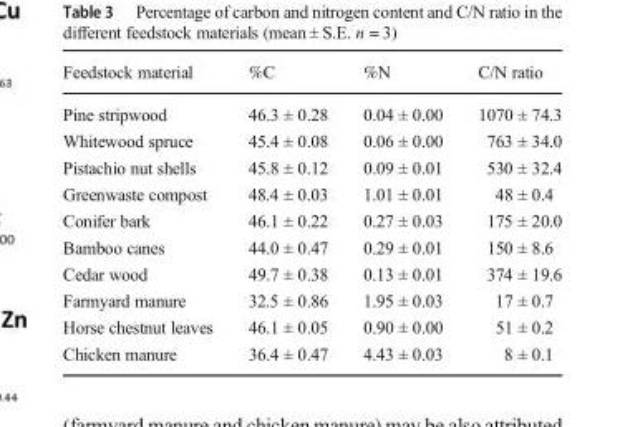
<table><thead><tr><td>Feedstock material</td><td>%C</td><td>%N</td><td>C/N ratio</td></tr></thead><tbody><tr><td>Pine stripwood</td><td>46.3 ± 0.28</td><td>0.04 ± 0.00</td><td>1070 ± 74.3</td></tr><tr><td>Whitewood spruce</td><td>45.4 ± 0.08</td><td>0.06 ± 0.00</td><td>763 ± 34.0</td></tr><tr><td>Pistachio nut shells</td><td>45.8 ± 0.12</td><td>0.09 ± 0.01</td><td>530 ± 32.4</td></tr><tr><td>Greenwaste compost</td><td>48.4 ± 0.03</td><td>1.01 ± 0.01</td><td>48 ± 0.4</td></tr><tr><td>Conifer bark</td><td>46.1 ± 0.22</td><td>0.27 ± 0.03</td><td>175 ± 20.0</td></tr><tr><td>Bamboo canes</td><td>44.0 ± 0.47</td><td>0.29 ± 0.01</td><td>150 ± 8.6</td></tr><tr><td>Cedar wood</td><td>49.7 ± 0.38</td><td>0.13 ± 0.01</td><td>374 ± 19.6</td></tr><tr><td>Farmyard manure</td><td>32.5 ± 0.86</td><td>1.95 ± 0.03</td><td>17 ± 0.7</td></tr><tr><td>Horse chestnut leaves</td><td>46.1 ± 0.05</td><td>0.90 ± 0.00</td><td>51 ± 0.2</td></tr><tr><td>Chicken manure</td><td>36.4 ± 0.47</td><td>4.43 ± 0.03</td><td>8 ± 0.1</td></tr></tbody></table>